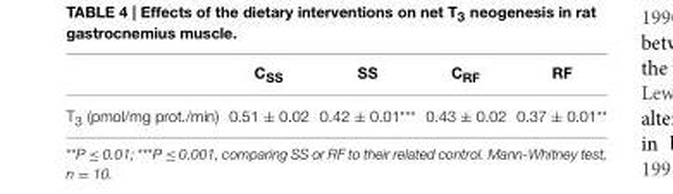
<table><thead><tr><td></td><td>C<sub>SS</sub></td><td>SS</td><td>C<sub>RF</sub></td><td>RF</td></tr></thead><tbody><tr><td>T<sub>3</sub> (pmol/mg prot./min)</td><td>0.51 ± 0.02</td><td>0.42 ± 0.01***</td><td>0.43 ± 0.02</td><td>0.37 ± 0.01**</td></tr></tbody></table>